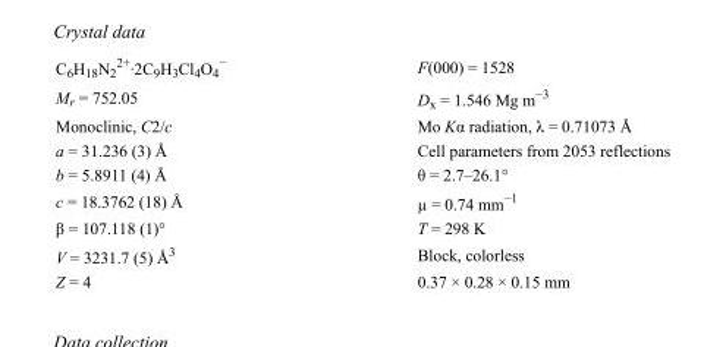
<table><tbody><tr><td>C<sub>6</sub>H<sub>18</sub>N<sub>2</sub> <sup>2+</sup>·2C<sub>9</sub>H<sub>3</sub>Cl<sub>4</sub>O<sub>4</sub> <sup>−</sup></td><td>F(000) = 1528</td></tr><tr><td>M<sub>r</sub> = 752.05</td><td>D<sub>x</sub> = 1.546 Mg m<sup>−3</sup></td></tr><tr><td>Monoclinic, C2/c</td><td>Mo Kα radiation, λ = 0.71073 Å</td></tr><tr><td>a = 31.236 (3) Å</td><td>Cell parameters from 2053 reflections</td></tr><tr><td>b = 5.8911 (4) Å</td><td>θ = 2.7–26.1°</td></tr><tr><td>c = 18.3762 (18) Å</td><td>µ = 0.74 mm<sup>−1</sup></td></tr><tr><td>β = 107.118 (1)°</td><td>T = 298 K</td></tr><tr><td>V = 3231.7 (5) Å<sup>3</sup></td><td>Block, colorless</td></tr><tr><td>Z = 4</td><td>0.37 × 0.28 × 0.15 mm</td></tr></tbody></table>